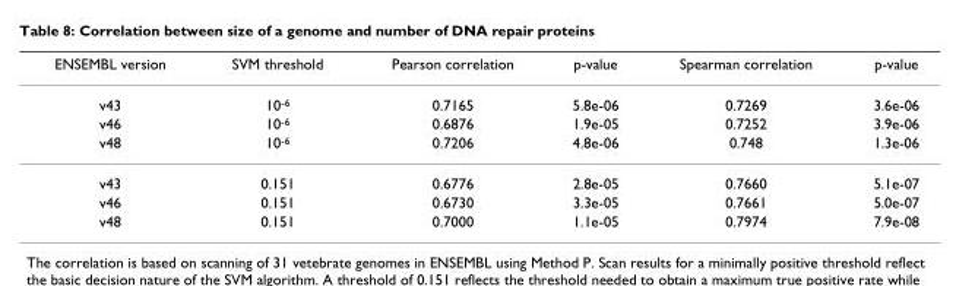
<table><thead><tr><td>ENSEMBL version</td><td>SVM threshold</td><td>Pearson correlation</td><td>p-value</td><td>Spearman correlation</td><td>p-value</td></tr></thead><tbody><tr><td>v43</td><td>10<sup>-6</sup></td><td>0.7165</td><td>5.8e-06</td><td>0.7269</td><td>3.6e-06</td></tr><tr><td>v46</td><td>10<sup>-6</sup></td><td>0.6876</td><td>1.9e-05</td><td>0.7252</td><td>3.9e-06</td></tr><tr><td>v48</td><td>10<sup>-6</sup></td><td>0.7206</td><td>4.8e-06</td><td>0.748</td><td>1.3e-06</td></tr><tr><td>v43</td><td>0.151</td><td>0.6776</td><td>2.8e-05</td><td>0.7660</td><td>5.1e-07</td></tr><tr><td>v46</td><td>0.151</td><td>0.6730</td><td>3.3e-05</td><td>0.7661</td><td>5.0e-07</td></tr><tr><td>v48</td><td>0.151</td><td>0.7000</td><td>1.1e-05</td><td>0.7974</td><td>7.9e-08</td></tr></tbody></table>